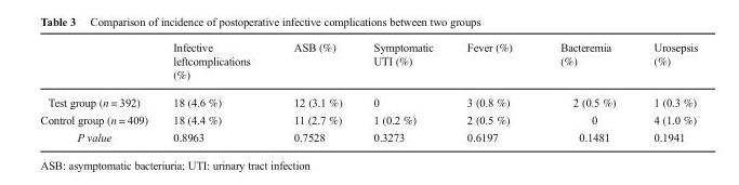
<table><thead><tr><td></td><td>Infective leftcomplications (%)</td><td>ASB (%)</td><td>Symptomatic UTI (%)</td><td>Fever (%)</td><td>Bacteremia (%)</td><td>Urosepsis (%)</td></tr></thead><tbody><tr><td>Test group (n = 392)</td><td>18 (4.6 %)</td><td>12 (3.1 %)</td><td>0</td><td>3 (0.8 %)</td><td>2 (0.5 %)</td><td>1 (0.3 %)</td></tr><tr><td>Control group (n = 409)</td><td>18 (4.4 %)</td><td>11 (2.7 %)</td><td>1 (0.2 %)</td><td>2 (0.5 %)</td><td>0</td><td>4 (1.0 %)</td></tr><tr><td>P value</td><td>0.8963</td><td>0.7528</td><td>0.3273</td><td>0.6197</td><td>0.1481</td><td>0.1941</td></tr></tbody></table>